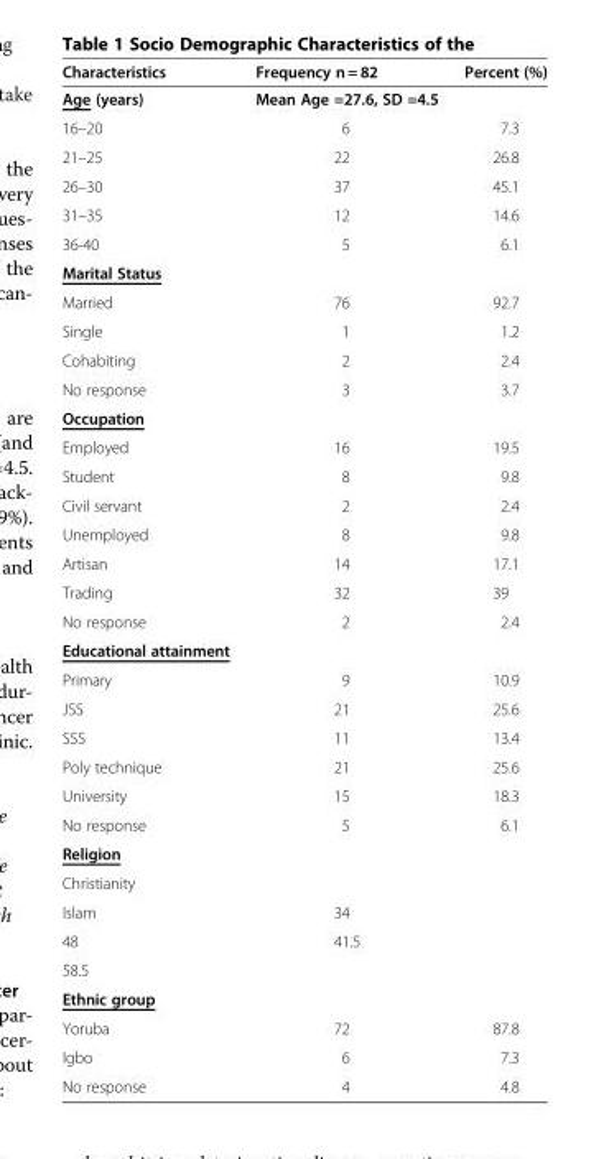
<table><thead><tr><td>Characteristics</td><td>Frequency n = 82</td><td>Percent (%)</td></tr></thead><tbody><tr><td>Age (years)</td><td>Mean Age =27.6, SD =4.5</td><td></td></tr><tr><td>16–20</td><td>6</td><td>7.3</td></tr><tr><td>21–25</td><td>22</td><td>26.8</td></tr><tr><td>26–30</td><td>37</td><td>45.1</td></tr><tr><td>31–35</td><td>12</td><td>14.6</td></tr><tr><td>36-40</td><td>5</td><td>6.1</td></tr><tr><td colspan="3">Marital Status</td></tr><tr><td>Married</td><td>76</td><td>92.7</td></tr><tr><td>Single</td><td>1</td><td>1.2</td></tr><tr><td>Cohabiting</td><td>2</td><td>2.4</td></tr><tr><td>No response</td><td>3</td><td>3.7</td></tr><tr><td colspan="3">Occupation</td></tr><tr><td>Employed</td><td>16</td><td>19.5</td></tr><tr><td>Student</td><td>8</td><td>9.8</td></tr><tr><td>Civil servant</td><td>2</td><td>2.4</td></tr><tr><td>Unemployed</td><td>8</td><td>9.8</td></tr><tr><td>Artisan</td><td>14</td><td>17.1</td></tr><tr><td>Trading</td><td>32</td><td>39</td></tr><tr><td>No response</td><td>2</td><td>2.4</td></tr><tr><td colspan="3">Educational attainment</td></tr><tr><td>Primary</td><td>9</td><td>10.9</td></tr><tr><td>JSS</td><td>21</td><td>25.6</td></tr><tr><td>SSS</td><td>11</td><td>13.4</td></tr><tr><td>Poly technique</td><td>21</td><td>25.6</td></tr><tr><td>University</td><td>15</td><td>18.3</td></tr><tr><td>No response</td><td>5</td><td>6.1</td></tr><tr><td colspan="3">Religion</td></tr><tr><td colspan="3">Christianity</td></tr><tr><td>Islam</td><td>34</td><td></td></tr><tr><td>48</td><td>41.5</td><td></td></tr><tr><td colspan="3">58.5</td></tr><tr><td colspan="3">Ethnic group</td></tr><tr><td>Yoruba</td><td>72</td><td>87.8</td></tr><tr><td>Igbo</td><td>6</td><td>7.3</td></tr><tr><td>No response</td><td>4</td><td>4.8</td></tr></tbody></table>